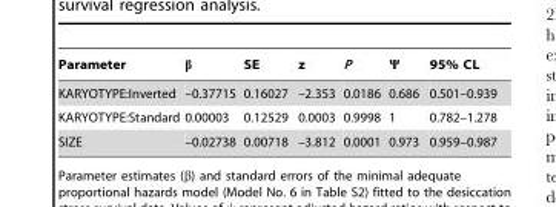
<table><thead><tr><td>Parameter</td><td>β</td><td>SE</td><td>z</td><td>P</td><td>Ψ</td><td>95% CL</td></tr></thead><tbody><tr><td>KARYOTYPE:Inverted</td><td>–0.37715</td><td>0.16027</td><td>–2.353</td><td>0.0186</td><td>0.686</td><td>0.501–0.939</td></tr><tr><td>KARYOTYPE:Standard</td><td>0.00003</td><td>0.12529</td><td>0.0003</td><td>0.9998</td><td>1</td><td>0.782–1.278</td></tr><tr><td>SIZE</td><td>–0.02738</td><td>0.00718</td><td>–3.812</td><td>0.0001</td><td>0.973</td><td>0.959–0.987</td></tr></tbody></table>